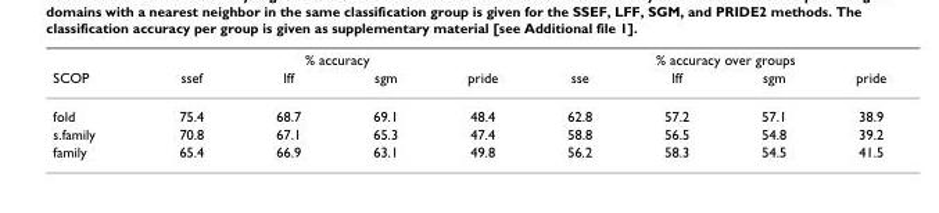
<table><thead><tr><td rowspan="2">SCOP</td><td colspan="4">% accuracy</td><td colspan="4">% accuracy over groups</td></tr><tr><td>ssef</td><td>lff</td><td>sgm</td><td>pride</td><td>sse</td><td>lff</td><td>sgm</td><td>pride</td></tr></thead><tbody><tr><td>fold</td><td>75.4</td><td>68.7</td><td>69.1</td><td>48.4</td><td>62.8</td><td>57.2</td><td>57.1</td><td>38.9</td></tr><tr><td>s.family</td><td>70.8</td><td>67.1</td><td>65.3</td><td>47.4</td><td>58.8</td><td>56.5</td><td>54.8</td><td>39.2</td></tr><tr><td>family</td><td>65.4</td><td>66.9</td><td>63.1</td><td>49.8</td><td>56.2</td><td>58.3</td><td>54.5</td><td>41.5</td></tr></tbody></table>